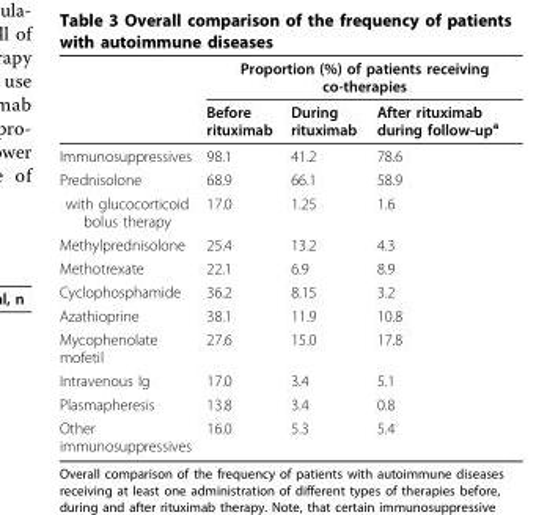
<table><thead><tr><td rowspan="2"></td><td colspan="3">Proportion (%) of patients receiving co-therapies</td></tr><tr><td>Before rituximab</td><td>During rituximab</td><td>After rituximab during follow-up<sup>a</sup></td></tr></thead><tbody><tr><td>Immunosuppressives</td><td>98.1</td><td>41.2</td><td>78.6</td></tr><tr><td>Prednisolone</td><td>68.9</td><td>66.1</td><td>58.9</td></tr><tr><td>with glucocorticoid bolus therapy</td><td>17.0</td><td>1.25</td><td>1.6</td></tr><tr><td>Methylprednisolone</td><td>25.4</td><td>13.2</td><td>4.3</td></tr><tr><td>Methotrexate</td><td>22.1</td><td>6.9</td><td>8.9</td></tr><tr><td>Cyclophosphamide</td><td>36.2</td><td>8.15</td><td>3.2</td></tr><tr><td>Azathioprine</td><td>38.1</td><td>11.9</td><td>10.8</td></tr><tr><td>Mycophenolate mofetil</td><td>27.6</td><td>15.0</td><td>17.8</td></tr><tr><td>Intravenous Ig</td><td>17.0</td><td>3.4</td><td>5.1</td></tr><tr><td>Plasmapheresis</td><td>13.8</td><td>3.4</td><td>0.8</td></tr><tr><td>Other immunosuppressives</td><td>16.0</td><td>5.3</td><td>5.4</td></tr></tbody></table>